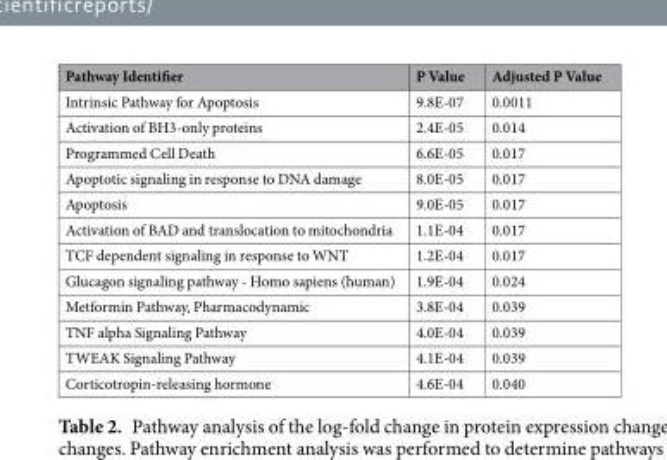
<table><thead><tr><td>Pathway Identifier</td><td>P Value</td><td>Adjusted P Value</td></tr></thead><tbody><tr><td>Intrinsic Pathway for Apoptosis</td><td>9.8E-07</td><td>0.0011</td></tr><tr><td>Activation of BH3-only proteins</td><td>2.4E-05</td><td>0.014</td></tr><tr><td>Programmed Cell Death</td><td>6.6E-05</td><td>0.017</td></tr><tr><td>Apoptotic signaling in response to DNA damage</td><td>8.0E-05</td><td>0.017</td></tr><tr><td>Apoptosis</td><td>9.0E-05</td><td>0.017</td></tr><tr><td>Activation of BAD and translocation to mitochondria</td><td>1.1E-04</td><td>0.017</td></tr><tr><td>TCF dependent signaling in response to WNT</td><td>1.2E-04</td><td>0.017</td></tr><tr><td>Glucagon signaling pathway - Homo sapiens (human)</td><td>1.9E-04</td><td>0.024</td></tr><tr><td>Metformin Pathway, Pharmacodynamic</td><td>3.8E-04</td><td>0.039</td></tr><tr><td>TNF alpha Signaling Pathway</td><td>4.0E-04</td><td>0.039</td></tr><tr><td>TWEAK Signaling Pathway</td><td>4.1E-04</td><td>0.039</td></tr><tr><td>Corticotropin-releasing hormone</td><td>4.6E-04</td><td>0.040</td></tr></tbody></table>